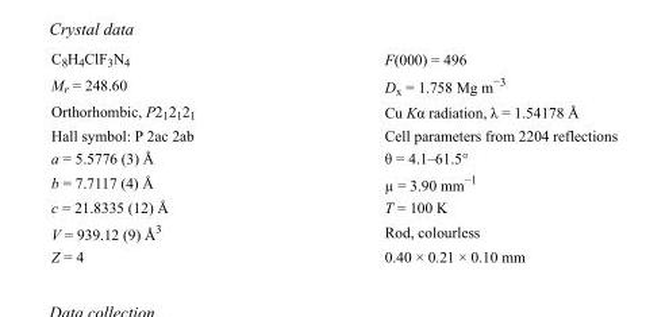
<table><tbody><tr><td>C<sub>8</sub>H<sub>4</sub>ClF<sub>3</sub>N<sub>4</sub></td><td>F(000) = 496</td></tr><tr><td>M<sub>r</sub> = 248.60</td><td>D<sub>x</sub> = 1.758 Mg m<sup>−3</sup></td></tr><tr><td>Orthorhombic, P2<sub>1</sub>2<sub>1</sub>2<sub>1</sub></td><td>Cu Kα radiation, λ = 1.54178 Å</td></tr><tr><td>Hall symbol: P 2ac 2ab</td><td>Cell parameters from 2204 reflections</td></tr><tr><td>a = 5.5776 (3) Å</td><td>θ = 4.1–61.5°</td></tr><tr><td>b = 7.7117 (4) Å</td><td>µ = 3.90 mm<sup>−1</sup></td></tr><tr><td>c = 21.8335 (12) Å</td><td>T = 100 K</td></tr><tr><td>V = 939.12 (9) Å<sup>3</sup></td><td>Rod, colourless</td></tr><tr><td>Z = 4</td><td>0.40 × 0.21 × 0.10 mm</td></tr></tbody></table>